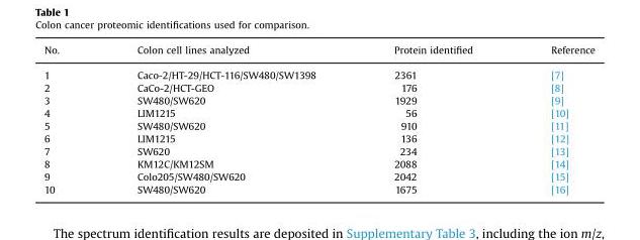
<table><thead><tr><td>No.</td><td>Colon cell lines analyzed</td><td>Protein identified</td><td>Reference</td></tr></thead><tbody><tr><td>1</td><td>Caco-2/HT-29/HCT-116/SW480/SW1398</td><td>2361</td><td>[7]</td></tr><tr><td>2</td><td>CaCo-2/HCT-GEO</td><td>176</td><td>[8]</td></tr><tr><td>3</td><td>SW480/SW620</td><td>1929</td><td>[9]</td></tr><tr><td>4</td><td>LIM1215</td><td>56</td><td>[10]</td></tr><tr><td>5</td><td>SW480/SW620</td><td>910</td><td>[11]</td></tr><tr><td>6</td><td>LIM1215</td><td>136</td><td>[12]</td></tr><tr><td>7</td><td>SW620</td><td>234</td><td>[13]</td></tr><tr><td>8</td><td>KM12C/KM12SM</td><td>2088</td><td>[14]</td></tr><tr><td>9</td><td>Colo205/SW480/SW620</td><td>2042</td><td>[15]</td></tr><tr><td>10</td><td>SW480/SW620</td><td>1675</td><td>[16]</td></tr></tbody></table>